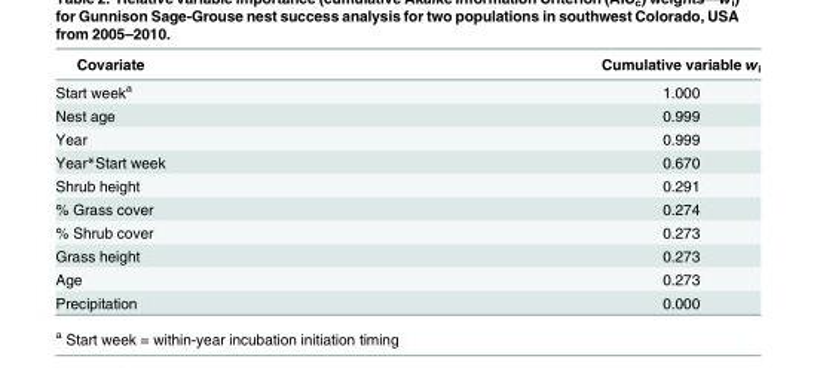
<table><thead><tr><td>Covariate</td><td>Cumulative variable w<sub>i</sub></td></tr></thead><tbody><tr><td>Start week<sup>a</sup></td><td>1.000</td></tr><tr><td>Nest age</td><td>0.999</td></tr><tr><td>Year</td><td>0.999</td></tr><tr><td>Year*Start week</td><td>0.670</td></tr><tr><td>Shrub height</td><td>0.291</td></tr><tr><td>% Grass cover</td><td>0.274</td></tr><tr><td>% Shrub cover</td><td>0.273</td></tr><tr><td>Grass height</td><td>0.273</td></tr><tr><td>Age</td><td>0.273</td></tr><tr><td>Precipitation</td><td>0.000</td></tr></tbody></table>